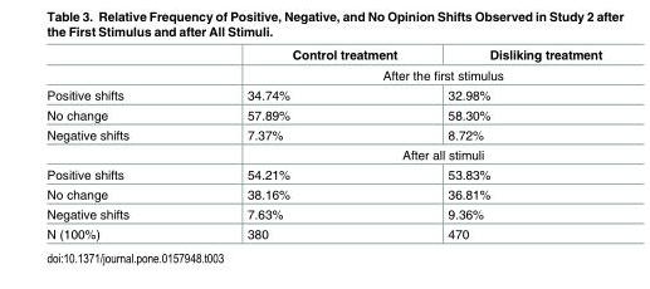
<table><thead><tr><td></td><td>Control treatment</td><td>Disliking treatment</td></tr></thead><tbody><tr><td></td><td colspan="2">After the first stimulus</td></tr><tr><td>Positive shifts</td><td>34.74%</td><td>32.98%</td></tr><tr><td>No change</td><td>57.89%</td><td>58.30%</td></tr><tr><td rowspan="2">Negative shifts</td><td>7.37%</td><td>8.72%</td></tr><tr><td colspan="2">After all stimuli</td></tr><tr><td>Positive shifts</td><td>54.21%</td><td>53.83%</td></tr><tr><td>No change</td><td>38.16%</td><td>36.81%</td></tr><tr><td>Negative shifts</td><td>7.63%</td><td>9.36%</td></tr><tr><td>N (100%)</td><td>380</td><td>470</td></tr></tbody></table>